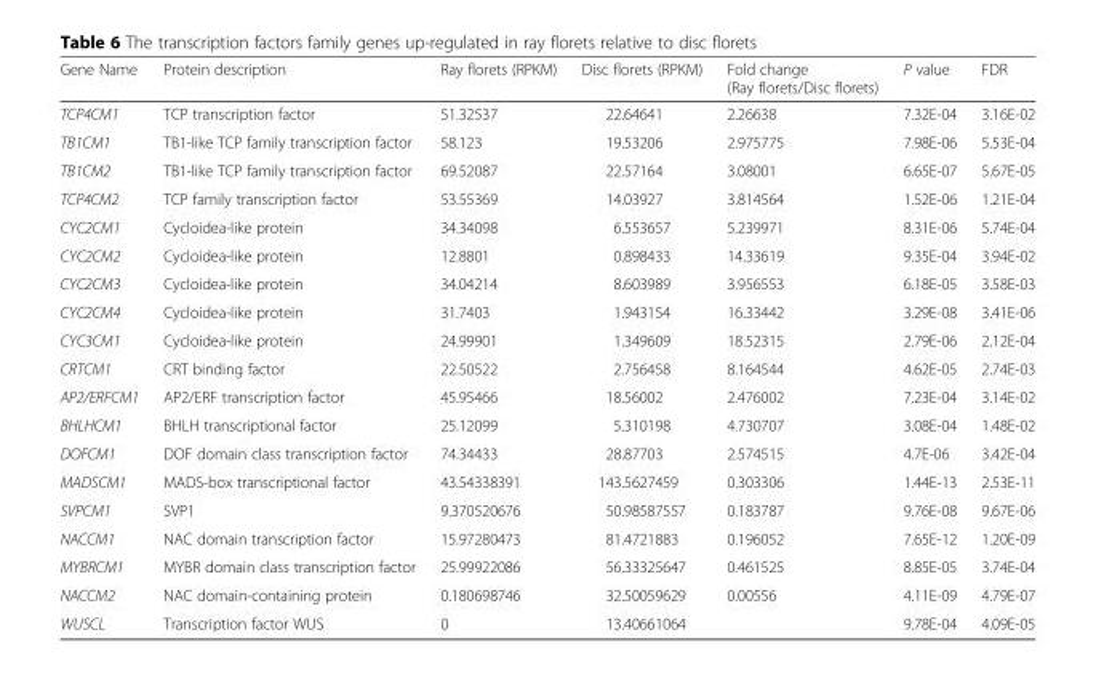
<table><thead><tr><td>Gene Name</td><td>Protein description</td><td>Ray florets (RPKM)</td><td>Disc florets (RPKM)</td><td>Fold change (Ray florets/Disc florets)</td><td>P value</td><td>FDR</td></tr></thead><tbody><tr><td>TCP4CM1</td><td>TCP transcription factor</td><td>51.32537</td><td>22.64641</td><td>2.26638</td><td>7.32E-04</td><td>3.16E-02</td></tr><tr><td>TB1CM1</td><td>TB1-like TCP family transcription factor</td><td>58.123</td><td>19.53206</td><td>2.975775</td><td>7.98E-06</td><td>5.53E-04</td></tr><tr><td>TB1CM2</td><td>TB1-like TCP family transcription factor</td><td>69.52087</td><td>22.57164</td><td>3.08001</td><td>6.65E-07</td><td>5.67E-05</td></tr><tr><td>TCP4CM2</td><td>TCP family transcription factor</td><td>53.55369</td><td>14.03927</td><td>3.814564</td><td>1.52E-06</td><td>1.21E-04</td></tr><tr><td>CYC2CM1</td><td>Cycloidea-like protein</td><td>34.34098</td><td>6.553657</td><td>5.239971</td><td>8.31E-06</td><td>5.74E-04</td></tr><tr><td>CYC2CM2</td><td>Cycloidea-like protein</td><td>12.8801</td><td>0.898433</td><td>14.33619</td><td>9.35E-04</td><td>3.94E-02</td></tr><tr><td>CYC2CM3</td><td>Cycloidea-like protein</td><td>34.04214</td><td>8.603989</td><td>3.956553</td><td>6.18E-05</td><td>3.58E-03</td></tr><tr><td>CYC2CM4</td><td>Cycloidea-like protein</td><td>31.7403</td><td>1.943154</td><td>16.33442</td><td>3.29E-08</td><td>3.41E-06</td></tr><tr><td>CYC3CM1</td><td>Cycloidea-like protein</td><td>24.99901</td><td>1.349609</td><td>18.52315</td><td>2.79E-06</td><td>2.12E-04</td></tr><tr><td>CRTCM1</td><td>CRT binding factor</td><td>22.50522</td><td>2.756458</td><td>8.164544</td><td>4.62E-05</td><td>2.74E-03</td></tr><tr><td>AP2/ERFCM1</td><td>AP2/ERF transcription factor</td><td>45.95466</td><td>18.56002</td><td>2.476002</td><td>7.23E-04</td><td>3.14E-02</td></tr><tr><td>BHLHCM1</td><td>BHLH transcriptional factor</td><td>25.12099</td><td>5.310198</td><td>4.730707</td><td>3.08E-04</td><td>1.48E-02</td></tr><tr><td>DOFCM1</td><td>DOF domain class transcription factor</td><td>74.34433</td><td>28.87703</td><td>2.574515</td><td>4.7E-06</td><td>3.42E-04</td></tr><tr><td>MADSCM1</td><td>MADS-box transcriptional factor</td><td>43.54338391</td><td>143.5627459</td><td>0.303306</td><td>1.44E-13</td><td>2.53E-11</td></tr><tr><td>SVPCM1</td><td>SVP1</td><td>9.370520676</td><td>50.98587557</td><td>0.183787</td><td>9.76E-08</td><td>9.67E-06</td></tr><tr><td>NACCM1</td><td>NAC domain transcription factor</td><td>15.97280473</td><td>81.4721883</td><td>0.196052</td><td>7.65E-12</td><td>1.20E-09</td></tr><tr><td>MYBRCM1</td><td>MYBR domain class transcription factor</td><td>25.99922086</td><td>56.33325647</td><td>0.461525</td><td>8.85E-05</td><td>3.74E-04</td></tr><tr><td>NACCM2</td><td>NAC domain-containing protein</td><td>0.180698746</td><td>32.50059629</td><td>0.00556</td><td>4.11E-09</td><td>4.79E-07</td></tr><tr><td>WUSCL</td><td>Transcription factor WUS</td><td>0</td><td>13.40661064</td><td></td><td>9.78E-04</td><td>4.09E-05</td></tr></tbody></table>